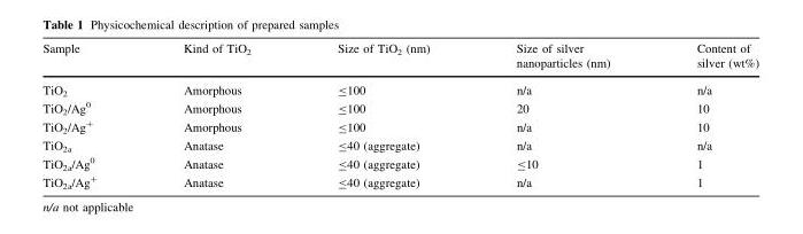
<table><thead><tr><td>Sample</td><td>Kind of TiO<sub>2</sub></td><td>Size of TiO<sub>2</sub> (nm)</td><td>Size of silver nanoparticles (nm)</td><td>Content of silver (wt%)</td></tr></thead><tbody><tr><td>TiO<sub>2</sub></td><td>Amorphous</td><td>≤100</td><td>n/a</td><td>n/a</td></tr><tr><td>TiO<sub>2</sub>/Ag<sup>0</sup></td><td>Amorphous</td><td>≤100</td><td>20</td><td>10</td></tr><tr><td>TiO<sub>2</sub>/Ag<sup>+</sup></td><td>Amorphous</td><td>≤100</td><td>n/a</td><td>10</td></tr><tr><td>TiO<sub>2a</sub></td><td>Anatase</td><td>≤40 (aggregate)</td><td>n/a</td><td>n/a</td></tr><tr><td>TiO<sub>2a</sub>/Ag<sup>0</sup></td><td>Anatase</td><td>≤40 (aggregate)</td><td>≤10</td><td>1</td></tr><tr><td>TiO<sub>2a</sub>/Ag<sup>+</sup></td><td>Anatase</td><td>≤40 (aggregate)</td><td>n/a</td><td>1</td></tr></tbody></table>